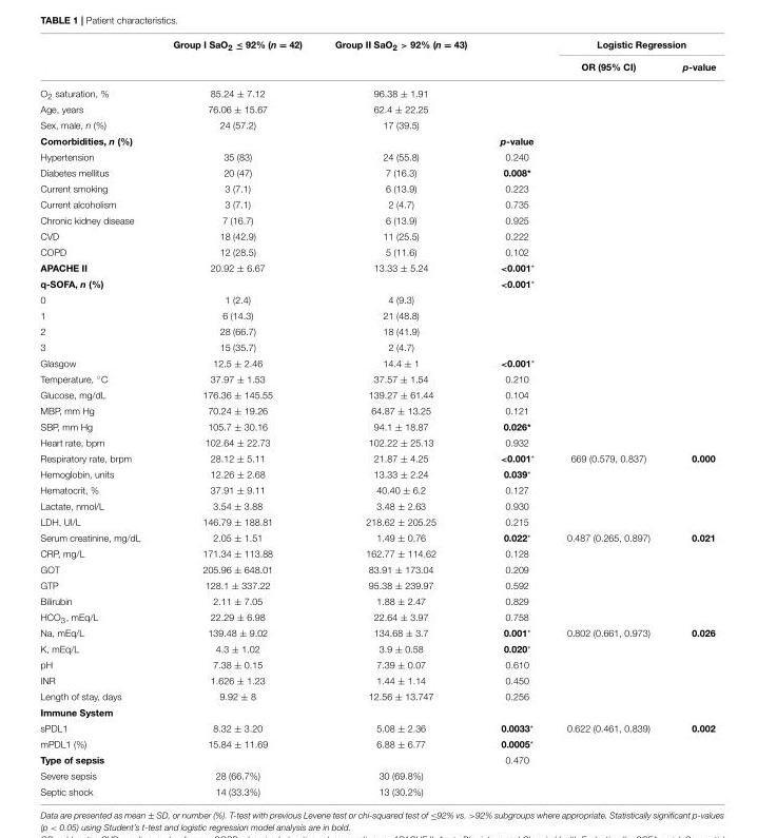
<table><thead><tr><td rowspan="2"></td><td rowspan="2">Group I SaO<sub>2</sub> ≤ 92% (n = 42)</td><td rowspan="2">Group II SaO<sub>2</sub> &gt; 92% (n = 43)</td><td rowspan="2"></td><td colspan="2">Logistic Regression</td></tr><tr><td>OR (95% CI)</td><td>p-value</td></tr></thead><tbody><tr><td>O<sub>2</sub> saturation, %</td><td>85.24 ± 7.12</td><td>96.38 ± 1.91</td><td></td><td></td><td></td></tr><tr><td>Age, years</td><td>76.06 ± 15.67</td><td>62.4 ± 22.25</td><td></td><td></td><td></td></tr><tr><td>Sex, male, n (%)</td><td>24 (57.2)</td><td>17 (39.5)</td><td></td><td></td><td></td></tr><tr><td>Comorbidities, n (%)</td><td></td><td></td><td>p-value</td><td></td><td></td></tr><tr><td>Hypertension</td><td>35 (83)</td><td>24 (55.8)</td><td>0.240</td><td></td><td></td></tr><tr><td>Diabetes mellitus</td><td>20 (47)</td><td>7 (16.3)</td><td>0.008*</td><td></td><td></td></tr><tr><td>Current smoking</td><td>3 (7.1)</td><td>6 (13.9)</td><td>0.223</td><td></td><td></td></tr><tr><td>Current alcoholism</td><td>3 (7.1)</td><td>2 (4.7)</td><td>0.735</td><td></td><td></td></tr><tr><td>Chronic kidney disease</td><td>7 (16.7)</td><td>6 (13.9)</td><td>0.925</td><td></td><td></td></tr><tr><td>CVD</td><td>18 (42.9)</td><td>11 (25.5)</td><td>0.222</td><td></td><td></td></tr><tr><td>COPD</td><td>12 (28.5)</td><td>5 (11.6)</td><td>0.102</td><td></td><td></td></tr><tr><td>APACHE II</td><td>20.92 ± 6.67</td><td>13.33 ± 5.24</td><td>&lt;0.001*</td><td></td><td></td></tr><tr><td>q-SOFA, n (%)</td><td></td><td></td><td>&lt;0.001*</td><td></td><td></td></tr><tr><td>0</td><td>1 (2.4)</td><td>4 (9.3)</td><td></td><td></td><td></td></tr><tr><td>1</td><td>6 (14.3)</td><td>21 (48.8)</td><td></td><td></td><td></td></tr><tr><td>2</td><td>28 (66.7)</td><td>18 (41.9)</td><td></td><td></td><td></td></tr><tr><td>3</td><td>15 (35.7)</td><td>2 (4.7)</td><td></td><td></td><td></td></tr><tr><td>Glasgow</td><td>12.5 ± 2.46</td><td>14.4 ± 1</td><td>&lt;0.001*</td><td></td><td></td></tr><tr><td>Temperature, ◦C</td><td>37.97 ± 1.53</td><td>37.57 ± 1.54</td><td>0.210</td><td></td><td></td></tr><tr><td>Glucose, mg/dL</td><td>176.36 ± 145.55</td><td>139.27 ± 61.44</td><td>0.104</td><td></td><td></td></tr><tr><td>MBP, mm Hg</td><td>70.24 ± 19.26</td><td>64.87 ± 13.25</td><td>0.121</td><td></td><td></td></tr><tr><td>SBP, mm Hg</td><td>105.7 ± 30.16</td><td>94.1 ± 18.87</td><td>0.026*</td><td></td><td></td></tr><tr><td>Heart rate, bpm</td><td>102.64 ± 22.73</td><td>102.22 ± 25.13</td><td>0.932</td><td></td><td></td></tr><tr><td>Respiratory rate, brpm</td><td>28.12 ± 5.11</td><td>21.87 ± 4.25</td><td>&lt;0.001*</td><td>669 (0.579, 0.837)</td><td>0.000</td></tr><tr><td>Hemoglobin, units</td><td>12.26 ± 2.68</td><td>13.33 ± 2.24</td><td>0.039*</td><td></td><td></td></tr><tr><td>Hematocrit, %</td><td>37.91 ± 9.11</td><td>40.40 ± 6.2</td><td>0.127</td><td></td><td></td></tr><tr><td>Lactate, nmol/L</td><td>3.54 ± 3.88</td><td>3.48 ± 2.63</td><td>0.930</td><td></td><td></td></tr><tr><td>LDH, UI/L</td><td>146.79 ± 188.81</td><td>218.62 ± 205.25</td><td>0.215</td><td></td><td></td></tr><tr><td>Serum creatinine, mg/dL</td><td>2.05 ± 1.51</td><td>1.49 ± 0.76</td><td>0.022*</td><td>0.487 (0.265, 0.897)</td><td>0.021</td></tr><tr><td>CRP, mg/L</td><td>171.34 ± 113.88</td><td>162.77 ± 114.62</td><td>0.128</td><td></td><td></td></tr><tr><td>GOT</td><td>205.96 ± 648.01</td><td>83.91 ± 173.04</td><td>0.209</td><td></td><td></td></tr><tr><td>GTP</td><td>128.1 ± 337.22</td><td>95.38 ± 239.97</td><td>0.592</td><td></td><td></td></tr><tr><td>Bilirubin</td><td>2.11 ± 7.05</td><td>1.88 ± 2.47</td><td>0.829</td><td></td><td></td></tr><tr><td>HCO<sub>3</sub>, mEq/L</td><td>22.29 ± 6.98</td><td>22.64 ± 3.97</td><td>0.758</td><td></td><td></td></tr><tr><td>Na, mEq/L</td><td>139.48 ± 9.02</td><td>134.68 ± 3.7</td><td>0.001*</td><td>0.802 (0.661, 0.973)</td><td>0.026</td></tr><tr><td>K, mEq/L</td><td>4.3 ± 1.02</td><td>3.9 ± 0.58</td><td>0.020*</td><td></td><td></td></tr><tr><td>pH</td><td>7.38 ± 0.15</td><td>7.39 ± 0.07</td><td>0.610</td><td></td><td></td></tr><tr><td>INR</td><td>1.626 ± 1.23</td><td>1.44 ± 1.14</td><td>0.450</td><td></td><td></td></tr><tr><td>Length of stay, days</td><td>9.92 ± 8</td><td>12.56 ± 13.747</td><td>0.256</td><td></td><td></td></tr><tr><td colspan="6">Immune System</td></tr><tr><td>sPDL1</td><td>8.32 ± 3.20</td><td>5.08 ± 2.36</td><td>0.0033*</td><td>0.622 (0.461, 0.839)</td><td>0.002</td></tr><tr><td>mPDL1 (%)</td><td>15.84 ± 11.69</td><td>6.88 ± 6.77</td><td>0.0005*</td><td></td><td></td></tr><tr><td>Type of sepsis</td><td></td><td></td><td>0.470</td><td></td><td></td></tr><tr><td>Severe sepsis</td><td>28 (66.7%)</td><td>30 (69.8%)</td><td></td><td></td><td></td></tr><tr><td>Septic shock</td><td>14 (33.3%)</td><td>13 (30.2%)</td><td></td><td></td><td></td></tr></tbody></table>